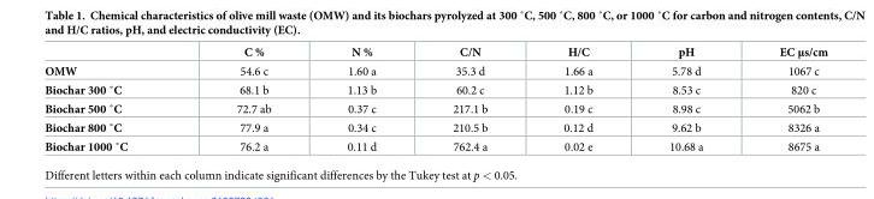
<table><thead><tr><td></td><td>C %</td><td>N %</td><td>C/N</td><td>H/C</td><td>pH</td><td>EC μs/cm</td></tr></thead><tbody><tr><td>OMW</td><td>54.6 c</td><td>1.60 a</td><td>35.3 d</td><td>1.66 a</td><td>5.78 d</td><td>1067 c</td></tr><tr><td>Biochar 300 ˚C</td><td>68.1 b</td><td>1.13 b</td><td>60.2 c</td><td>1.12 b</td><td>8.53 c</td><td>820 c</td></tr><tr><td>Biochar 500 ˚C</td><td>72.7 ab</td><td>0.37 c</td><td>217.1 b</td><td>0.19 c</td><td>8.98 c</td><td>5062 b</td></tr><tr><td>Biochar 800 ˚C</td><td>77.9 a</td><td>0.34 c</td><td>210.5 b</td><td>0.12 d</td><td>9.62 b</td><td>8326 a</td></tr><tr><td>Biochar 1000 ˚C</td><td>76.2 a</td><td>0.11 d</td><td>762.4 a</td><td>0.02 e</td><td>10.68 a</td><td>8675 a</td></tr></tbody></table>